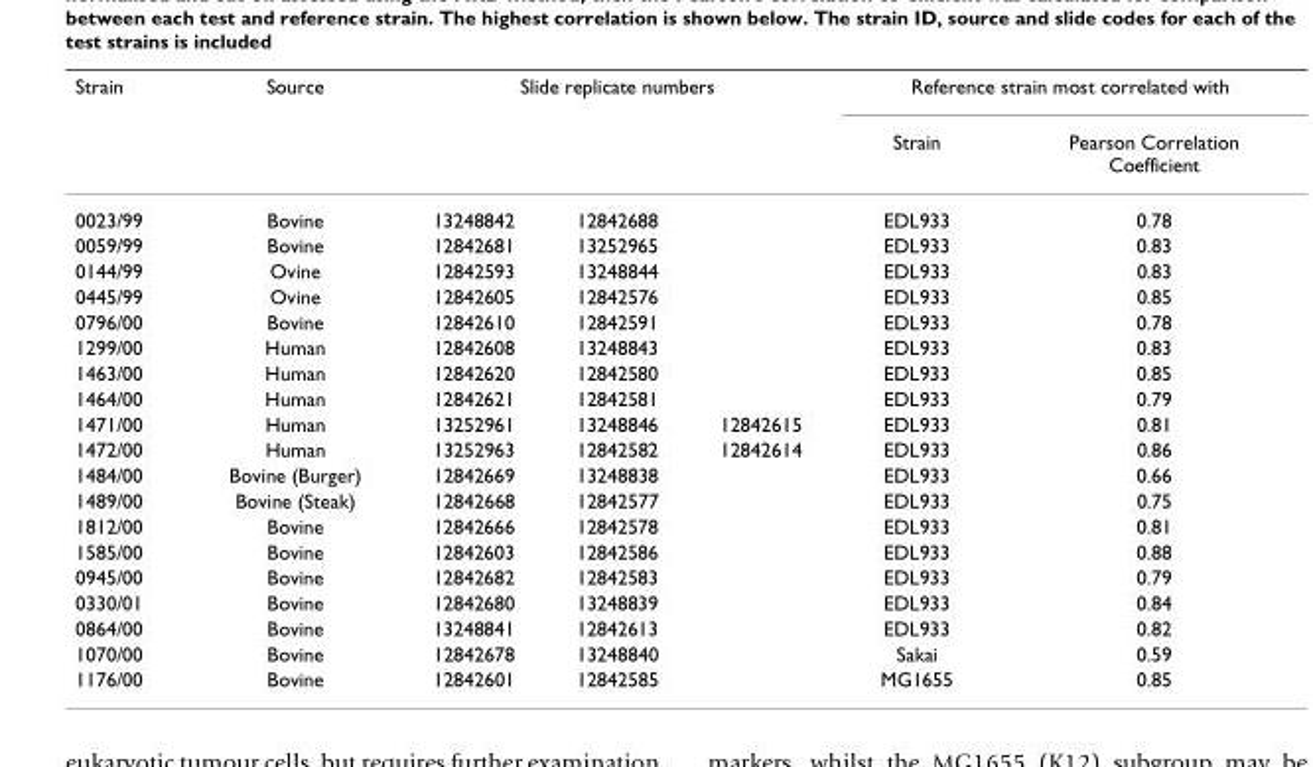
<table><thead><tr><td rowspan="2">Strain</td><td rowspan="2">Source</td><td colspan="3">Slide replicate numbers</td><td colspan="2">Reference strain most correlated with</td></tr><tr><td></td><td></td><td></td><td>Strain</td><td>Pearson Correlation Coefficient</td></tr></thead><tbody><tr><td>0023/99</td><td>Bovine</td><td>13248842</td><td>12842688</td><td></td><td>EDL933</td><td>0.78</td></tr><tr><td>0059/99</td><td>Bovine</td><td>12842681</td><td>13252965</td><td></td><td>EDL933</td><td>0.83</td></tr><tr><td>0144/99</td><td>Ovine</td><td>12842593</td><td>13248844</td><td></td><td>EDL933</td><td>0.83</td></tr><tr><td>0445/99</td><td>Ovine</td><td>12842605</td><td>12842576</td><td></td><td>EDL933</td><td>0.85</td></tr><tr><td>0796/00</td><td>Bovine</td><td>12842610</td><td>12842591</td><td></td><td>EDL933</td><td>0.78</td></tr><tr><td>1299/00</td><td>Human</td><td>12842608</td><td>13248843</td><td></td><td>EDL933</td><td>0.83</td></tr><tr><td>1463/00</td><td>Human</td><td>12842620</td><td>12842580</td><td></td><td>EDL933</td><td>0.85</td></tr><tr><td>1464/00</td><td>Human</td><td>12842621</td><td>12842581</td><td></td><td>EDL933</td><td>0.79</td></tr><tr><td>1471/00</td><td>Human</td><td>13252961</td><td>13248846</td><td>12842615</td><td>EDL933</td><td>0.81</td></tr><tr><td>1472/00</td><td>Human</td><td>13252963</td><td>12842582</td><td>12842614</td><td>EDL933</td><td>0.86</td></tr><tr><td>1484/00</td><td>Bovine (Burger)</td><td>12842669</td><td>13248838</td><td></td><td>EDL933</td><td>0.66</td></tr><tr><td>1489/00</td><td>Bovine (Steak)</td><td>12842668</td><td>12842577</td><td></td><td>EDL933</td><td>0.75</td></tr><tr><td>1812/00</td><td>Bovine</td><td>12842666</td><td>12842578</td><td></td><td>EDL933</td><td>0.81</td></tr><tr><td>1585/00</td><td>Bovine</td><td>12842603</td><td>12842586</td><td></td><td>EDL933</td><td>0.88</td></tr><tr><td>0945/00</td><td>Bovine</td><td>12842682</td><td>12842583</td><td></td><td>EDL933</td><td>0.79</td></tr><tr><td>0330/01</td><td>Bovine</td><td>12842680</td><td>13248839</td><td></td><td>EDL933</td><td>0.84</td></tr><tr><td>0864/00</td><td>Bovine</td><td>13248841</td><td>12842613</td><td></td><td>EDL933</td><td>0.82</td></tr><tr><td>1070/00</td><td>Bovine</td><td>12842678</td><td>13248840</td><td></td><td>Sakai</td><td>0.59</td></tr><tr><td>1176/00</td><td>Bovine</td><td>12842601</td><td>12842585</td><td></td><td>MG1655</td><td>0.85</td></tr></tbody></table>